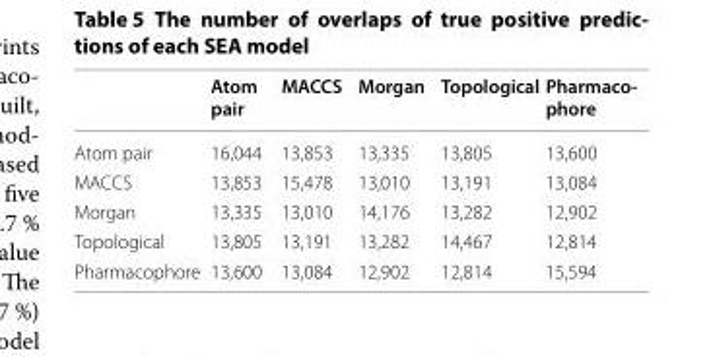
<table><thead><tr><td></td><td>Atom pair</td><td>MACCS</td><td>Morgan</td><td>Topological</td><td>Pharmaco- phore</td></tr></thead><tbody><tr><td>Atom pair</td><td>16,044</td><td>13,853</td><td>13,335</td><td>13,805</td><td>13,600</td></tr><tr><td>MACCS</td><td>13,853</td><td>15,478</td><td>13,010</td><td>13,191</td><td>13,084</td></tr><tr><td>Morgan</td><td>13,335</td><td>13,010</td><td>14,176</td><td>13,282</td><td>12,902</td></tr><tr><td>Topological</td><td>13,805</td><td>13,191</td><td>13,282</td><td>14,467</td><td>12,814</td></tr><tr><td>Pharmacophore</td><td>13,600</td><td>13,084</td><td>12,902</td><td>12,814</td><td>15,594</td></tr></tbody></table>